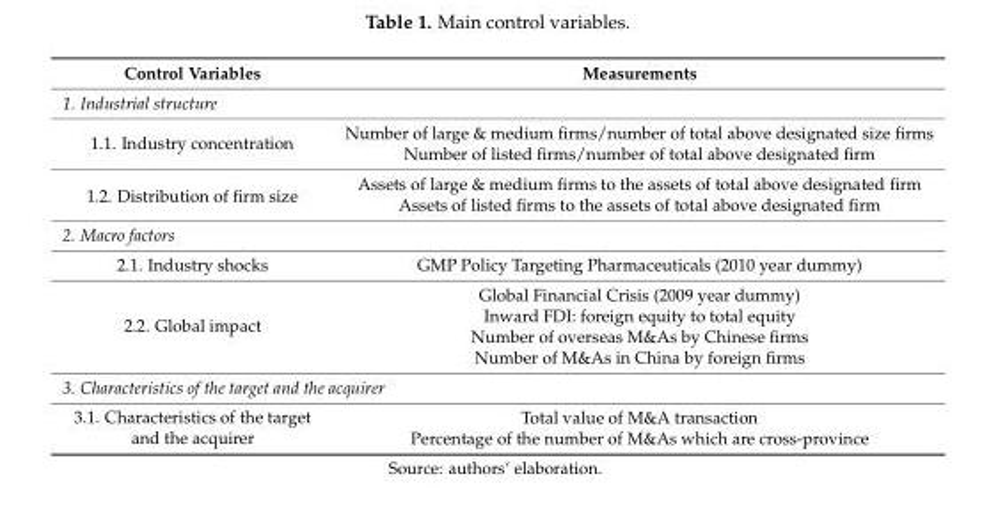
<table><thead><tr><td>Control Variables</td><td>Measurements</td></tr></thead><tbody><tr><td colspan="2">1. Industrial structure</td></tr><tr><td rowspan="2">1.1. Industry concentration</td><td>Number of large &amp; medium firms/number of total above designated size firms</td></tr><tr><td>Number of listed firms/number of total above designated firm</td></tr><tr><td rowspan="2">1.2. Distribution of firm size</td><td>Assets of large &amp; medium firms to the assets of total above designated firm</td></tr><tr><td>Assets of listed firms to the assets of total above designated firm</td></tr><tr><td colspan="2">2. Macro factors</td></tr><tr><td>2.1. Industry shocks</td><td>GMP Policy Targeting Pharmaceuticals (2010 year dummy)</td></tr><tr><td rowspan="4">2.2. Global impact</td><td>Global Financial Crisis (2009 year dummy)</td></tr><tr><td>Inward FDI: foreign equity to total equity</td></tr><tr><td>Number of overseas M&amp;As by Chinese firms</td></tr><tr><td>Number of M&amp;As in China by foreign firms</td></tr><tr><td colspan="2">3. Characteristics of the target and the acquirer</td></tr><tr><td rowspan="2">3.1. Characteristics of the target and the acquirer</td><td>Total value of M&amp;A transaction</td></tr><tr><td>Percentage of the number of M&amp;As which are cross-province</td></tr></tbody></table>